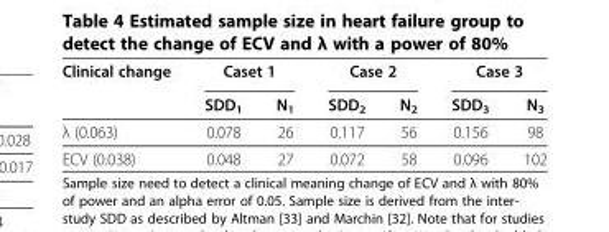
<table><thead><tr><td rowspan="2">Clinical change</td><td colspan="2">Caset 1</td><td colspan="2">Case 2</td><td colspan="2">Case 3</td></tr><tr><td>SDD<sub>1</sub></td><td>N<sub>1</sub></td><td>SDD<sub>2</sub></td><td>N<sub>2</sub></td><td>SDD<sub>3</sub></td><td>N<sub>3</sub></td></tr></thead><tbody><tr><td>λ (0.063)</td><td>0.078</td><td>26</td><td>0.117</td><td>56</td><td>0.156</td><td>98</td></tr><tr><td>ECV (0.038)</td><td>0.048</td><td>27</td><td>0.072</td><td>58</td><td>0.096</td><td>102</td></tr></tbody></table>